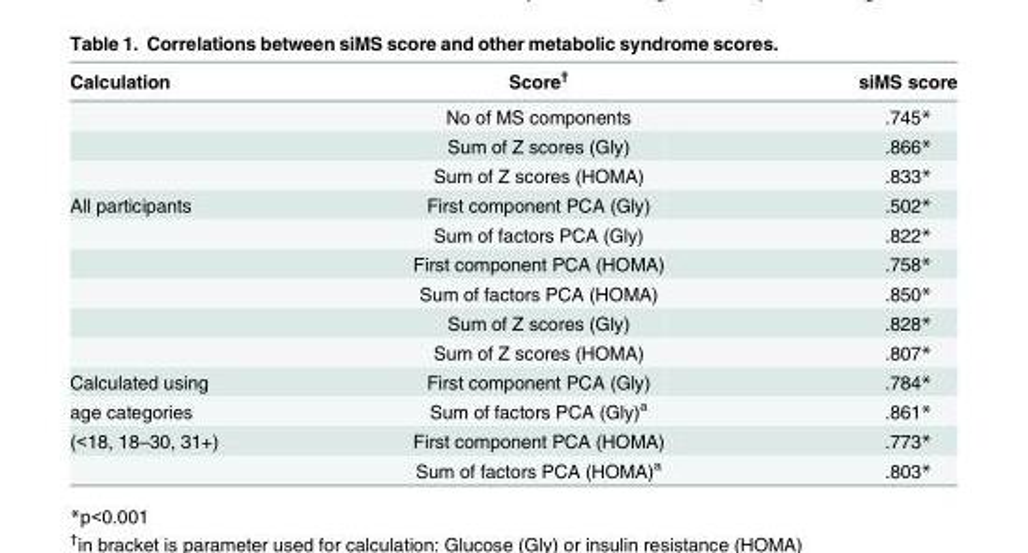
<table><thead><tr><td>Calculation</td><td>Score<sup>†</sup></td><td>siMS score</td></tr></thead><tbody><tr><td></td><td>No of MS components</td><td>.745*</td></tr><tr><td></td><td>Sum of Z scores (Gly)</td><td>.866*</td></tr><tr><td></td><td>Sum of Z scores (HOMA)</td><td>.833*</td></tr><tr><td rowspan="6">All participants</td><td>First component PCA (Gly)</td><td>.502*</td></tr><tr><td>Sum of factors PCA (Gly)</td><td>.822*</td></tr><tr><td>First component PCA (HOMA)</td><td>.758*</td></tr><tr><td>Sum of factors PCA (HOMA)</td><td>.850*</td></tr><tr><td>Sum of Z scores (Gly)</td><td>.828*</td></tr><tr><td>Sum of Z scores (HOMA)</td><td>.807*</td></tr><tr><td>Calculated using</td><td>First component PCA (Gly)</td><td>.784*</td></tr><tr><td>age categories</td><td>Sum of factors PCA (Gly)<sup>a</sup></td><td>.861*</td></tr><tr><td rowspan="2">(&lt;18, 18–30, 31+)</td><td>First component PCA (HOMA)</td><td>.773*</td></tr><tr><td>Sum of factors PCA (HOMA)<sup>a</sup></td><td>.803*</td></tr></tbody></table>